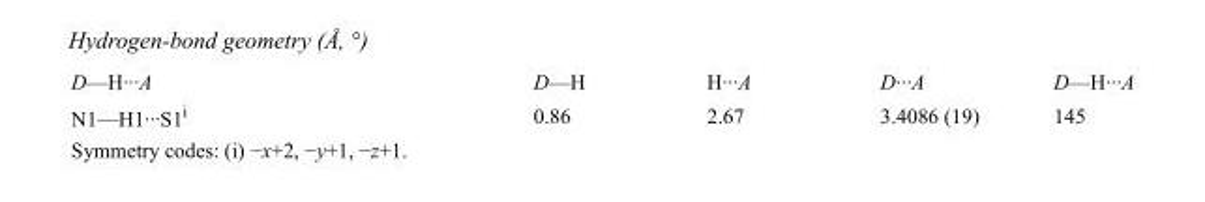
<table><tbody><tr><td>D—H···A</td><td>D—H</td><td>H···A</td><td>D···A</td><td>D—H···A</td></tr><tr><td>N1—H1···S1<sup>i</sup></td><td>0.86</td><td>2.67</td><td>3.4086 (19)</td><td>145</td></tr></tbody></table>